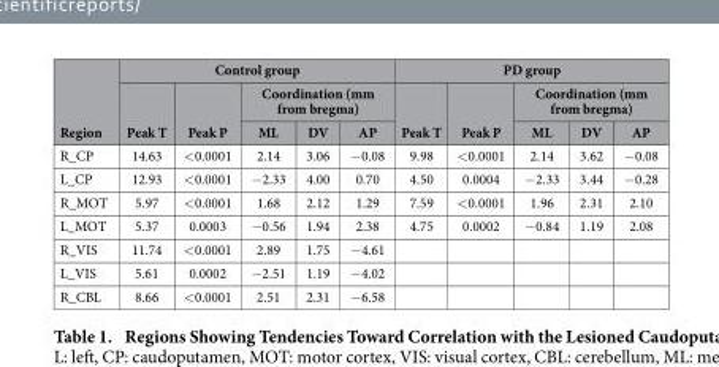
<table><thead><tr><td rowspan="3">Region</td><td colspan="5">Control group</td><td colspan="5">PD group</td></tr><tr><td rowspan="2">Peak T</td><td rowspan="2">Peak P</td><td colspan="3">Coordination (mm from bregma)</td><td rowspan="2">Peak T</td><td rowspan="2">Peak P</td><td colspan="3">Coordination (mm from bregma)</td></tr><tr><td>ML</td><td>DV</td><td>AP</td><td>ML</td><td>DV</td><td>AP</td></tr></thead><tbody><tr><td>R_CP</td><td>14.63</td><td>&lt; 0.0001</td><td>2.14</td><td>3.06</td><td>− 0.08</td><td>9.98</td><td>&lt; 0.0001</td><td>2.14</td><td>3.62</td><td>− 0.08</td></tr><tr><td>L_CP</td><td>12.93</td><td>&lt; 0.0001</td><td>− 2.33</td><td>4.00</td><td>0.70</td><td>4.50</td><td>0.0004</td><td>− 2.33</td><td>3.44</td><td>− 0.28</td></tr><tr><td>R_MOT</td><td>5.97</td><td>&lt; 0.0001</td><td>1.68</td><td>2.12</td><td>1.29</td><td>7.59</td><td>&lt; 0.0001</td><td>1.96</td><td>2.31</td><td>2.10</td></tr><tr><td>L_MOT</td><td>5.37</td><td>0.0003</td><td>− 0.56</td><td>1.94</td><td>2.38</td><td>4.75</td><td>0.0002</td><td>− 0.84</td><td>1.19</td><td>2.08</td></tr><tr><td>R_VIS</td><td>11.74</td><td>&lt; 0.0001</td><td>2.89</td><td>1.75</td><td>− 4.61</td><td></td><td></td><td></td><td></td><td></td></tr><tr><td>L_VIS</td><td>5.61</td><td>0.0002</td><td>− 2.51</td><td>1.19</td><td>− 4.02</td><td></td><td></td><td></td><td></td><td></td></tr><tr><td>R_CBL</td><td>8.66</td><td>&lt; 0.0001</td><td>2.51</td><td>2.31</td><td>− 6.58</td><td></td><td></td><td></td><td></td><td></td></tr></tbody></table>